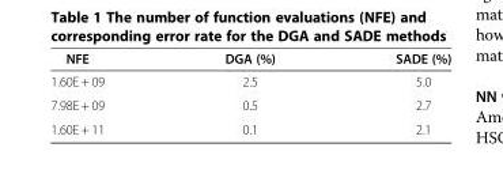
<table><thead><tr><td>NFE</td><td>DGA (%)</td><td>SADE (%)</td></tr></thead><tbody><tr><td>1.60E + 09</td><td>2.5</td><td>5.0</td></tr><tr><td>7.98E + 09</td><td>0.5</td><td>2.7</td></tr><tr><td>1.60E + 11</td><td>0.1</td><td>2.1</td></tr></tbody></table>